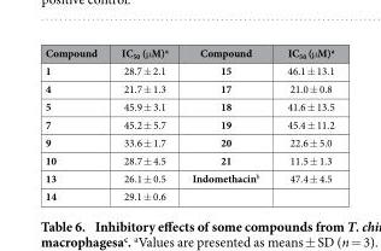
<table><thead><tr><td>Compound</td><td>IC<sub>50</sub> (μ M)<sup>a</sup></td><td>Compound</td><td>IC<sub>50</sub> (μ M)<sup>a</sup></td></tr></thead><tbody><tr><td>1</td><td>28.7 ± 2.1</td><td>15</td><td>46.1 ± 13.1</td></tr><tr><td>4</td><td>21.7 ± 1.3</td><td>17</td><td>21.0 ± 0.8</td></tr><tr><td>5</td><td>45.9 ± 3.1</td><td>18</td><td>41.6 ± 13.5</td></tr><tr><td>7</td><td>45.2 ± 5.7</td><td>19</td><td>45.4 ± 11.2</td></tr><tr><td>9</td><td>33.6 ± 1.7</td><td>20</td><td>22.6 ± 5.0</td></tr><tr><td>10</td><td>28.7 ± 4.5</td><td>21</td><td>11.5 ± 1.3</td></tr><tr><td>13</td><td>26.1 ± 0.5</td><td>Indomethacin<sup>b</sup></td><td>47.4 ± 4.5</td></tr><tr><td>14</td><td>29.1 ± 0.6</td><td></td><td></td></tr></tbody></table>